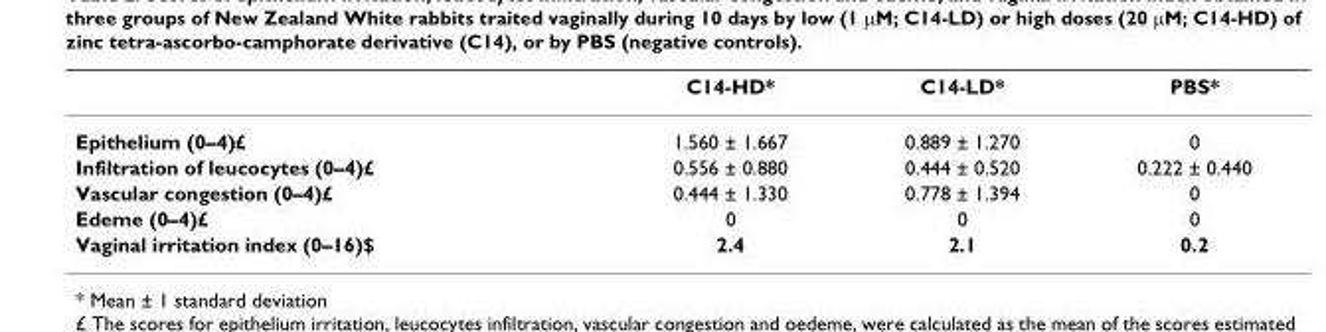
<table><thead><tr><td></td><td>C14-HD*</td><td>C14-LD*</td><td>PBS*</td></tr></thead><tbody><tr><td>Epithelium (0–4)£</td><td>1.560 ± 1.667</td><td>0.889 ± 1.270</td><td>0</td></tr><tr><td>Infiltration of leucocytes (0–4)£</td><td>0.556 ± 0.880</td><td>0.444 ± 0.520</td><td>0.222 ± 0.440</td></tr><tr><td>Vascular congestion (0–4)£</td><td>0.444 ± 1.330</td><td>0.778 ± 1.394</td><td>0</td></tr><tr><td>Edeme (0–4)£</td><td>0</td><td>0</td><td>0</td></tr><tr><td>Vaginal irritation index (0–16)$</td><td>2.4</td><td>2.1</td><td>0.2</td></tr></tbody></table>